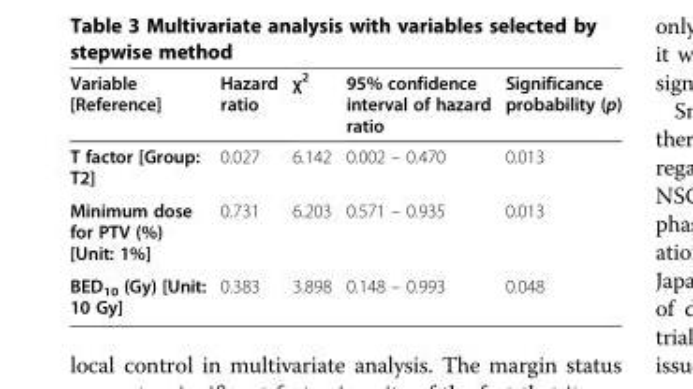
<table><thead><tr><td>Variable [Reference]</td><td>Hazard ratio</td><td>χ<sup>2</sup></td><td>95% confidence interval of hazard ratio</td><td>Significance probability (p)</td></tr></thead><tbody><tr><td>T factor [Group: T2]</td><td>0.027</td><td>6.142</td><td>0.002 – 0.470</td><td>0.013</td></tr><tr><td>Minimum dose for PTV (%) [Unit: 1%]</td><td>0.731</td><td>6.203</td><td>0.571 – 0.935</td><td>0.013</td></tr><tr><td>BED<sub>10</sub> (Gy) [Unit: 10 Gy]</td><td>0.383</td><td>3.898</td><td>0.148 – 0.993</td><td>0.048</td></tr></tbody></table>